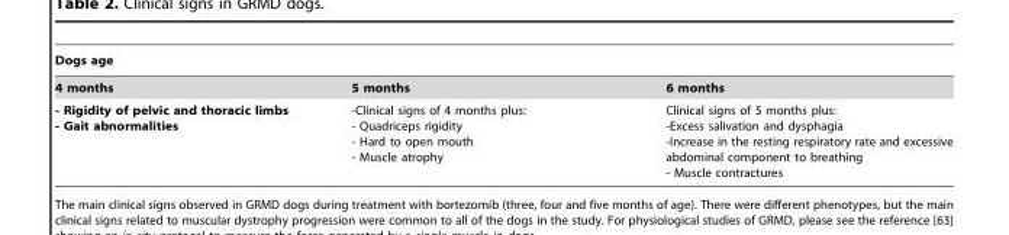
<table><thead><tr><td colspan="3">Dogs age</td></tr><tr><td>4 months</td><td>5 months</td><td>6 months</td></tr></thead><tbody><tr><td>- Rigidity of pelvic and thoracic limbs - Gait abnormalities</td><td>-Clinical signs of 4 months plus: - Quadriceps rigidity - Hard to open mouth - Muscle atrophy</td><td>Clinical signs of 5 months plus: -Excess salivation and dysphagia -Increase in the resting respiratory rate and excessive abdominal component to breathing - Muscle contractures</td></tr></tbody></table>